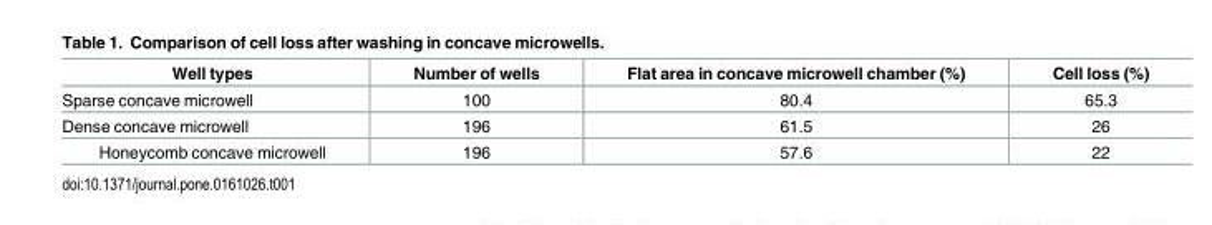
<table><thead><tr><td>Well types</td><td>Number of wells</td><td>Flat area in concave microwell chamber (%)</td><td>Cell loss (%)</td></tr></thead><tbody><tr><td>Sparse concave microwell</td><td>100</td><td>80.4</td><td>65.3</td></tr><tr><td>Dense concave microwell</td><td>196</td><td>61.5</td><td>26</td></tr><tr><td>Honeycomb concave microwell</td><td>196</td><td>57.6</td><td>22</td></tr></tbody></table>